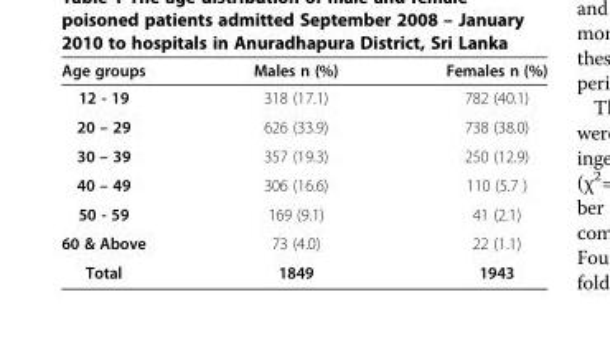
<table><thead><tr><td>Age groups</td><td>Males n (%)</td><td>Females n (%)</td></tr></thead><tbody><tr><td>12 - 19</td><td>318 (17.1)</td><td>782 (40.1)</td></tr><tr><td>20 – 29</td><td>626 (33.9)</td><td>738 (38.0)</td></tr><tr><td>30 – 39</td><td>357 (19.3)</td><td>250 (12.9)</td></tr><tr><td>40 – 49</td><td>306 (16.6)</td><td>110 (5.7 )</td></tr><tr><td>50 - 59</td><td>169 (9.1)</td><td>41 (2.1)</td></tr><tr><td>60 &amp; Above</td><td>73 (4.0)</td><td>22 (1.1)</td></tr><tr><td>Total</td><td>1849</td><td>1943</td></tr></tbody></table>